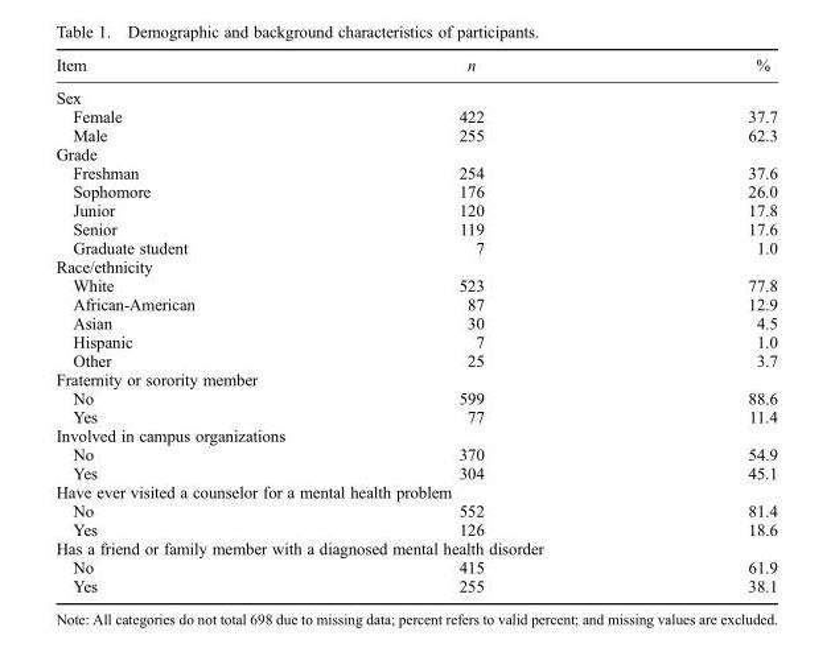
<table><thead><tr><td>Item</td><td>n</td><td>%</td></tr></thead><tbody><tr><td colspan="3">Sex</td></tr><tr><td>Female</td><td>422</td><td>37.7</td></tr><tr><td>Male</td><td>255</td><td>62.3</td></tr><tr><td colspan="3">Grade</td></tr><tr><td>Freshman</td><td>254</td><td>37.6</td></tr><tr><td>Sophomore</td><td>176</td><td>26.0</td></tr><tr><td>Junior</td><td>120</td><td>17.8</td></tr><tr><td>Senior</td><td>119</td><td>17.6</td></tr><tr><td>Graduate student</td><td>7</td><td>1.0</td></tr><tr><td colspan="3">Race/ethnicity</td></tr><tr><td>White</td><td>523</td><td>77.8</td></tr><tr><td>African-American</td><td>87</td><td>12.9</td></tr><tr><td>Asian</td><td>30</td><td>4.5</td></tr><tr><td>Hispanic</td><td>7</td><td>1.0</td></tr><tr><td>Other</td><td>25</td><td>3.7</td></tr><tr><td colspan="3">Fraternity or sorority member</td></tr><tr><td>No</td><td>599</td><td>88.6</td></tr><tr><td>Yes</td><td>77</td><td>11.4</td></tr><tr><td colspan="3">Involved in campus organizations</td></tr><tr><td>No</td><td>370</td><td>54.9</td></tr><tr><td>Yes</td><td>304</td><td>45.1</td></tr><tr><td colspan="3">Have ever visited a counselor for a mental health problem</td></tr><tr><td>No</td><td>552</td><td>81.4</td></tr><tr><td>Yes</td><td>126</td><td>18.6</td></tr><tr><td colspan="3">Has a friend or family member with a diagnosed mental health disorder</td></tr><tr><td>No</td><td>415</td><td>61.9</td></tr><tr><td>Yes</td><td>255</td><td>38.1</td></tr></tbody></table>